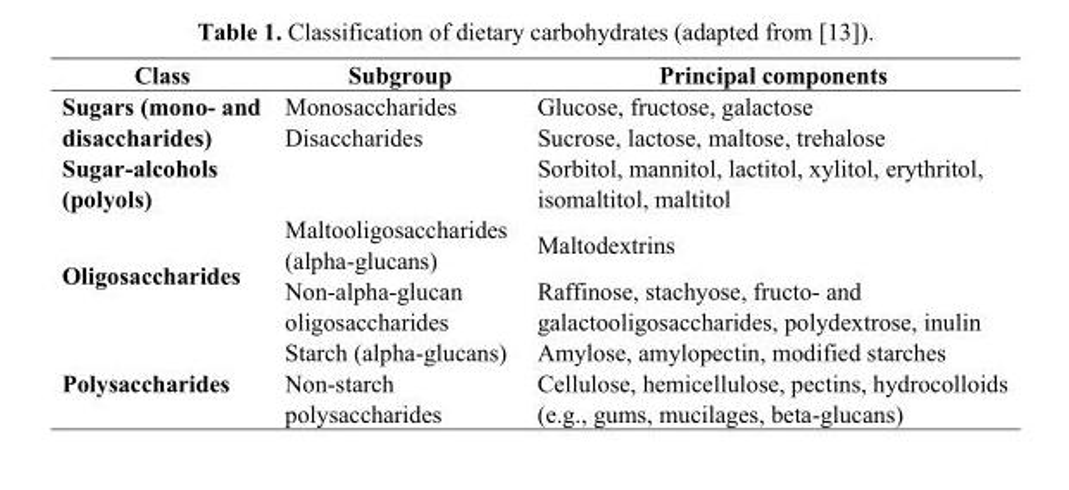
<table><thead><tr><td>Class</td><td>Subgroup</td><td>Principal components</td></tr></thead><tbody><tr><td rowspan="2">Sugars (mono- and disaccharides)</td><td>Monosaccharides</td><td>Glucose, fructose, galactose</td></tr><tr><td>Disaccharides</td><td>Sucrose, lactose, maltose, trehalose</td></tr><tr><td>Sugar-alcohols (polyols)</td><td></td><td>Sorbitol, mannitol, lactitol, xylitol, erythritol, isomaltitol, maltitol</td></tr><tr><td rowspan="2">Oligosaccharides</td><td>Maltooligosaccharides (alpha-glucans)</td><td>Maltodextrins</td></tr><tr><td>Non-alpha-glucan oligosaccharides</td><td>Raffinose, stachyose, fructo- and galactooligosaccharides, polydextrose, inulin</td></tr><tr><td rowspan="2">Polysaccharides</td><td>Starch (alpha-glucans)</td><td>Amylose, amylopectin, modified starches</td></tr><tr><td>Non-starch polysaccharides</td><td>Cellulose, hemicellulose, pectins, hydrocolloids (e.g., gums, mucilages, beta-glucans)</td></tr></tbody></table>